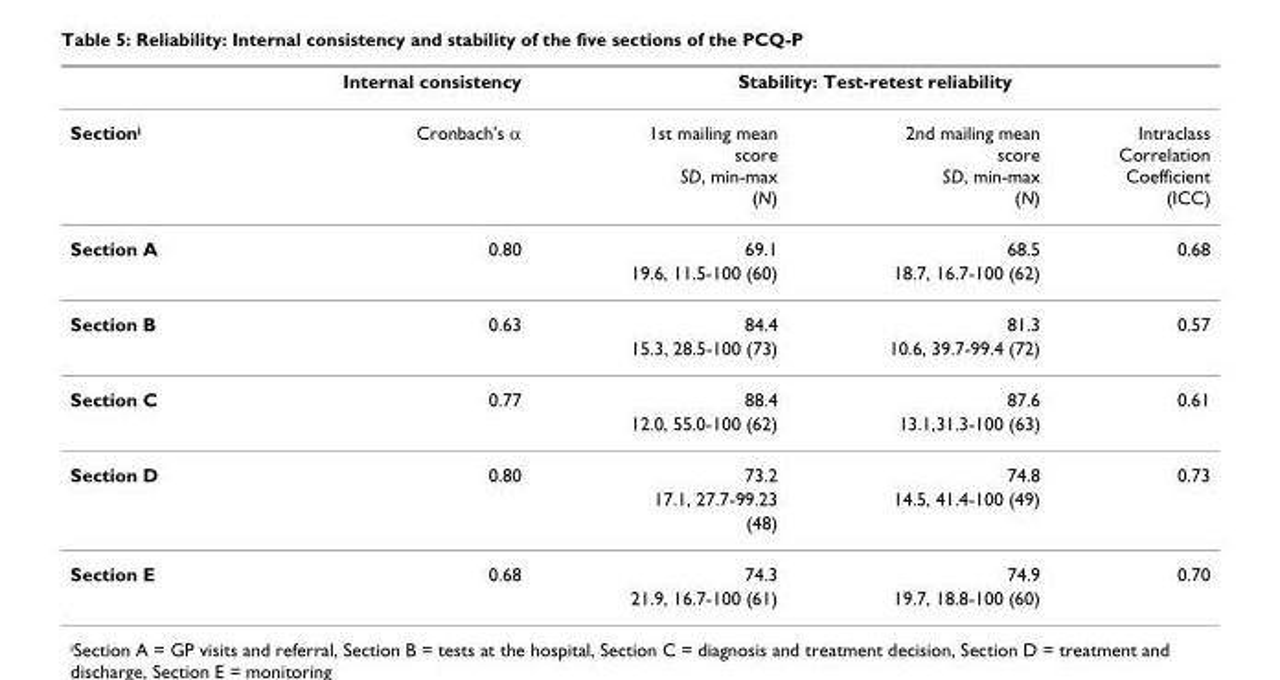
<table><thead><tr><td rowspan="2">Sectioni</td><td rowspan="2">Internal consistency Cronbach&#x27;s α</td><td colspan="3">Stability: Test-retest reliability</td></tr><tr><td>1st mailing mean score SD, min-max (N)</td><td>2nd mailing mean score SD, min-max (N)</td><td>Intraclass Correlation Coefficient (ICC)</td></tr></thead><tbody><tr><td rowspan="2">Section A</td><td>0.80</td><td>69.1</td><td>68.5</td><td>0.68</td></tr><tr><td></td><td>19.6, 11.5-100 (60)</td><td>18.7, 16.7-100 (62)</td><td></td></tr><tr><td rowspan="2">Section B</td><td>0.63</td><td>84.4</td><td>81.3</td><td>0.57</td></tr><tr><td></td><td>15.3, 28.5-100 (73)</td><td>10.6, 39.7-99.4 (72)</td><td></td></tr><tr><td rowspan="2">Section C</td><td>0.77</td><td>88.4</td><td>87.6</td><td>0.61</td></tr><tr><td></td><td>12.0, 55.0-100 (62)</td><td>13.1,31.3-100 (63)</td><td></td></tr><tr><td rowspan="3">Section D</td><td>0.80</td><td>73.2</td><td>74.8</td><td>0.73</td></tr><tr><td></td><td>17.1, 27.7-99.23</td><td>14.5, 41.4-100 (49)</td><td></td></tr><tr><td></td><td>(48)</td><td></td><td></td></tr><tr><td rowspan="2">Section E</td><td>0.68</td><td>74.3</td><td>74.9</td><td>0.70</td></tr><tr><td></td><td>21.9, 16.7-100 (61)</td><td>19.7, 18.8-100 (60)</td><td></td></tr></tbody></table>